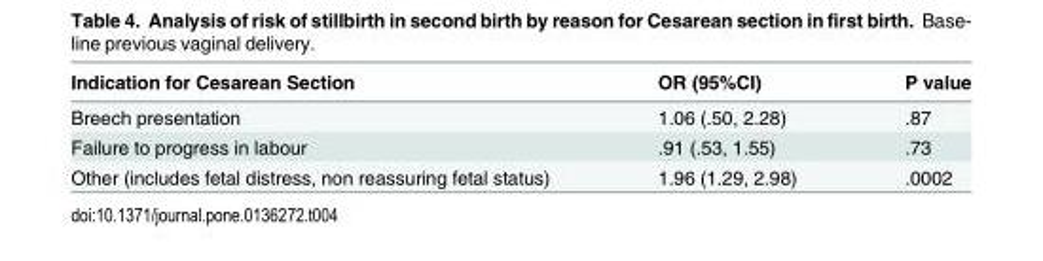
<table><thead><tr><td>Indication for Cesarean Section</td><td>OR (95%CI)</td><td>P value</td></tr></thead><tbody><tr><td>Breech presentation</td><td>1.06 (.50, 2.28)</td><td>.87</td></tr><tr><td>Failure to progress in labour</td><td>.91 (.53, 1.55)</td><td>.73</td></tr><tr><td>Other (includes fetal distress, non reassuring fetal status)</td><td>1.96 (1.29, 2.98)</td><td>.0002</td></tr></tbody></table>